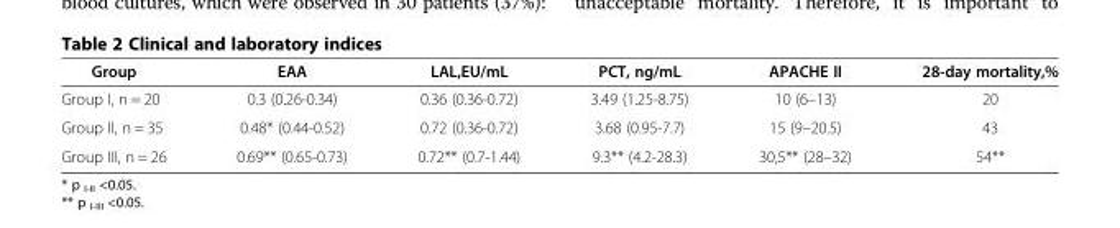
<table><thead><tr><td>Group</td><td>ЕАА</td><td>LAL,EU/mL</td><td>РСТ, ng/mL</td><td>APACHE II</td><td>28-day mortality,%</td></tr></thead><tbody><tr><td>Group I, n = 20</td><td>0.3 (0.26-0.34)</td><td>0.36 (0.36-0.72)</td><td>3.49 (1.25-8.75)</td><td>10 (6–13)</td><td>20</td></tr><tr><td>Group II, n = 35</td><td>0.48* (0.44-0.52)</td><td>0.72 (0.36-0.72)</td><td>3.68 (0.95-7.7)</td><td>15 (9–20.5)</td><td>43</td></tr><tr><td>Group III, n = 26</td><td>0.69** (0.65-0.73)</td><td>0.72** (0.7-1.44)</td><td>9.3** (4.2-28.3)</td><td>30,5** (28–32)</td><td>54**</td></tr></tbody></table>